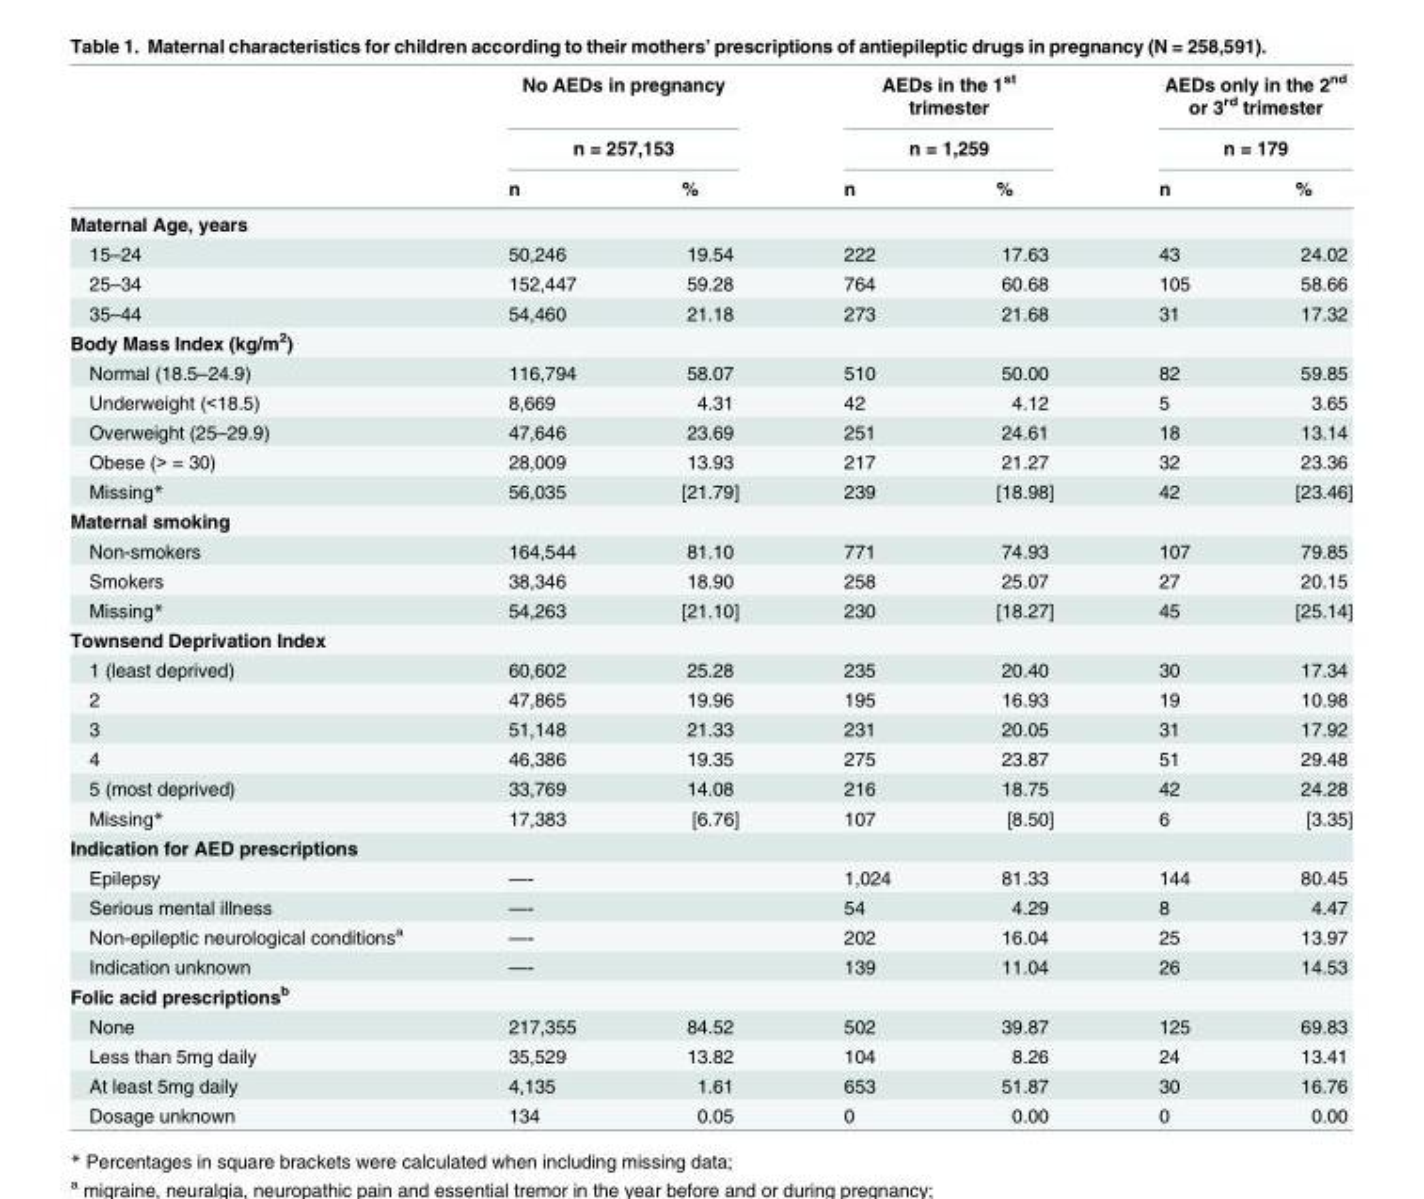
<table><thead><tr><td rowspan="3"></td><td rowspan="2" colspan="2">No AEDs in pregnancy n = 257,153</td><td rowspan="2" colspan="2">AEDs in the 1<sup>st</sup> trimester n = 1,259</td><td rowspan="2" colspan="2">AEDs only in the 2<sup>nd</sup> or 3<sup>rd</sup> trimester n = 179</td></tr><tr></tr><tr><td>n</td><td>%</td><td>n</td><td>%</td><td>n</td><td>%</td></tr></thead><tbody><tr><td colspan="7">Maternal Age, years</td></tr><tr><td>15–24</td><td>50,246</td><td>19.54</td><td>222</td><td>17.63</td><td>43</td><td>24.02</td></tr><tr><td>25–34</td><td>152,447</td><td>59.28</td><td>764</td><td>60.68</td><td>105</td><td>58.66</td></tr><tr><td>35–44</td><td>54,460</td><td>21.18</td><td>273</td><td>21.68</td><td>31</td><td>17.32</td></tr><tr><td colspan="7">Body Mass Index (kg/m<sup>2</sup>)</td></tr><tr><td>Normal (18.5–24.9)</td><td>116,794</td><td>58.07</td><td>510</td><td>50.00</td><td>82</td><td>59.85</td></tr><tr><td>Underweight (&lt;18.5)</td><td>8,669</td><td>4.31</td><td>42</td><td>4.12</td><td>5</td><td>3.65</td></tr><tr><td>Overweight (25–29.9)</td><td>47,646</td><td>23.69</td><td>251</td><td>24.61</td><td>18</td><td>13.14</td></tr><tr><td>Obese (&gt; = 30)</td><td>28,009</td><td>13.93</td><td>217</td><td>21.27</td><td>32</td><td>23.36</td></tr><tr><td>Missing*</td><td>56,035</td><td>[21.79]</td><td>239</td><td>[18.98]</td><td>42</td><td>[23.46]</td></tr><tr><td colspan="7">Maternal smoking</td></tr><tr><td>Non-smokers</td><td>164,544</td><td>81.10</td><td>771</td><td>74.93</td><td>107</td><td>79.85</td></tr><tr><td>Smokers</td><td>38,346</td><td>18.90</td><td>258</td><td>25.07</td><td>27</td><td>20.15</td></tr><tr><td>Missing*</td><td>54,263</td><td>[21.10]</td><td>230</td><td>[18.27]</td><td>45</td><td>[25.14]</td></tr><tr><td colspan="7">Townsend Deprivation Index</td></tr><tr><td>1 (least deprived)</td><td>60,602</td><td>25.28</td><td>235</td><td>20.40</td><td>30</td><td>17.34</td></tr><tr><td>2</td><td>47,865</td><td>19.96</td><td>195</td><td>16.93</td><td>19</td><td>10.98</td></tr><tr><td>3</td><td>51,148</td><td>21.33</td><td>231</td><td>20.05</td><td>31</td><td>17.92</td></tr><tr><td>4</td><td>46,386</td><td>19.35</td><td>275</td><td>23.87</td><td>51</td><td>29.48</td></tr><tr><td>5 (most deprived)</td><td>33,769</td><td>14.08</td><td>216</td><td>18.75</td><td>42</td><td>24.28</td></tr><tr><td>Missing*</td><td>17,383</td><td>[6.76]</td><td>107</td><td>[8.50]</td><td>6</td><td>[3.35]</td></tr><tr><td colspan="7">Indication for AED prescriptions</td></tr><tr><td>Epilepsy</td><td>—-</td><td></td><td>1,024</td><td>81.33</td><td>144</td><td>80.45</td></tr><tr><td>Serious mental illness</td><td>—-</td><td></td><td>54</td><td>4.29</td><td>8</td><td>4.47</td></tr><tr><td>Non-epileptic neurological conditions<sup>a</sup></td><td>—-</td><td></td><td>202</td><td>16.04</td><td>25</td><td>13.97</td></tr><tr><td>Indication unknown</td><td>—-</td><td></td><td>139</td><td>11.04</td><td>26</td><td>14.53</td></tr><tr><td colspan="7">Folic acid prescriptions<sup>b</sup></td></tr><tr><td>None</td><td>217,355</td><td>84.52</td><td>502</td><td>39.87</td><td>125</td><td>69.83</td></tr><tr><td>Less than 5mg daily</td><td>35,529</td><td>13.82</td><td>104</td><td>8.26</td><td>24</td><td>13.41</td></tr><tr><td>At least 5mg daily</td><td>4,135</td><td>1.61</td><td>653</td><td>51.87</td><td>30</td><td>16.76</td></tr><tr><td>Dosage unknown</td><td>134</td><td>0.05</td><td>0</td><td>0.00</td><td>0</td><td>0.00</td></tr></tbody></table>